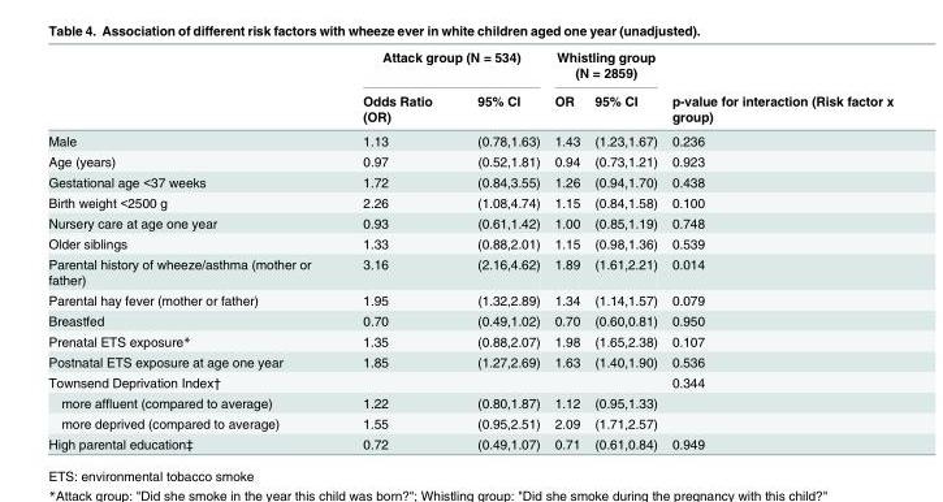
<table><thead><tr><td rowspan="2"></td><td colspan="2">Attack group (N = 534)</td><td colspan="2">Whistling group (N = 2859)</td><td rowspan="2">p-value for interaction (Risk factor x group)</td></tr><tr><td>Odds Ratio (OR)</td><td>95% CI</td><td>OR</td><td>95% CI</td></tr></thead><tbody><tr><td>Male</td><td>1.13</td><td>(0.78,1.63)</td><td>1.43</td><td>(1.23,1.67)</td><td>0.236</td></tr><tr><td>Age (years)</td><td>0.97</td><td>(0.52,1.81)</td><td>0.94</td><td>(0.73,1.21)</td><td>0.923</td></tr><tr><td>Gestational age &lt;37 weeks</td><td>1.72</td><td>(0.84,3.55)</td><td>1.26</td><td>(0.94,1.70)</td><td>0.438</td></tr><tr><td>Birth weight &lt;2500 g</td><td>2.26</td><td>(1.08,4.74)</td><td>1.15</td><td>(0.84,1.58)</td><td>0.100</td></tr><tr><td>Nursery care at age one year</td><td>0.93</td><td>(0.61,1.42)</td><td>1.00</td><td>(0.85,1.19)</td><td>0.748</td></tr><tr><td>Older siblings</td><td>1.33</td><td>(0.88,2.01)</td><td>1.15</td><td>(0.98,1.36)</td><td>0.539</td></tr><tr><td>Parental history of wheeze/asthma (mother or father)</td><td>3.16</td><td>(2.16,4.62)</td><td>1.89</td><td>(1.61,2.21)</td><td>0.014</td></tr><tr><td>Parental hay fever (mother or father)</td><td>1.95</td><td>(1.32,2.89)</td><td>1.34</td><td>(1.14,1.57)</td><td>0.079</td></tr><tr><td>Breastfed</td><td>0.70</td><td>(0.49,1.02)</td><td>0.70</td><td>(0.60,0.81)</td><td>0.950</td></tr><tr><td>Prenatal ETS exposure*</td><td>1.35</td><td>(0.88,2.07)</td><td>1.98</td><td>(1.65,2.38)</td><td>0.107</td></tr><tr><td>Postnatal ETS exposure at age one year</td><td>1.85</td><td>(1.27,2.69)</td><td>1.63</td><td>(1.40,1.90)</td><td>0.536</td></tr><tr><td>Townsend Deprivation Index†</td><td></td><td></td><td></td><td></td><td>0.344</td></tr><tr><td>more affluent (compared to average)</td><td>1.22</td><td>(0.80,1.87)</td><td>1.12</td><td>(0.95,1.33)</td><td></td></tr><tr><td>more deprived (compared to average)</td><td>1.55</td><td>(0.95,2.51)</td><td>2.09</td><td>(1.71,2.57)</td><td></td></tr><tr><td>High parental education‡</td><td>0.72</td><td>(0.49,1.07)</td><td>0.71</td><td>(0.61,0.84)</td><td>0.949</td></tr></tbody></table>